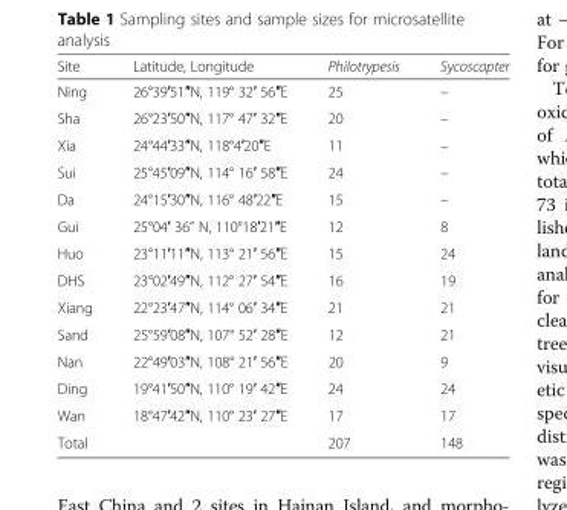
<table><thead><tr><td>Site</td><td>Latitude, Longitude</td><td>Philotrypesis</td><td>Sycoscapter</td></tr></thead><tbody><tr><td>Ning</td><td>26°39′51″N, 119° 32′ 56″E</td><td>25</td><td>–</td></tr><tr><td>Sha</td><td>26°23′50″N, 117° 47′ 32″E</td><td>20</td><td>–</td></tr><tr><td>Xia</td><td>24°44′33″N, 118°4′20″E</td><td>11</td><td>–</td></tr><tr><td>Sui</td><td>25°45′09″N, 114° 16′ 58″E</td><td>24</td><td>–</td></tr><tr><td>Da</td><td>24°15′30″N, 116° 48′22″E</td><td>15</td><td>–</td></tr><tr><td>Gui</td><td>25°04′ 36” N, 110°18′21″E</td><td>12</td><td>8</td></tr><tr><td>Huo</td><td>23°11′11″N, 113° 21′ 56″E</td><td>15</td><td>24</td></tr><tr><td>DHS</td><td>23°02′49″N, 112° 27′ 54″E</td><td>16</td><td>19</td></tr><tr><td>Xiang</td><td>22°23′47″N, 114° 06′ 34″E</td><td>21</td><td>21</td></tr><tr><td>Sand</td><td>25°59′08″N, 107° 52′ 28″E</td><td>12</td><td>21</td></tr><tr><td>Nan</td><td>22°49′03″N, 108° 21′ 56″E</td><td>20</td><td>9</td></tr><tr><td>Ding</td><td>19°41′50″N, 110° 19′ 42″E</td><td>24</td><td>24</td></tr><tr><td>Wan</td><td>18°47′42″N, 110° 23′ 27″E</td><td>17</td><td>17</td></tr><tr><td>Total</td><td></td><td>207</td><td>148</td></tr></tbody></table>